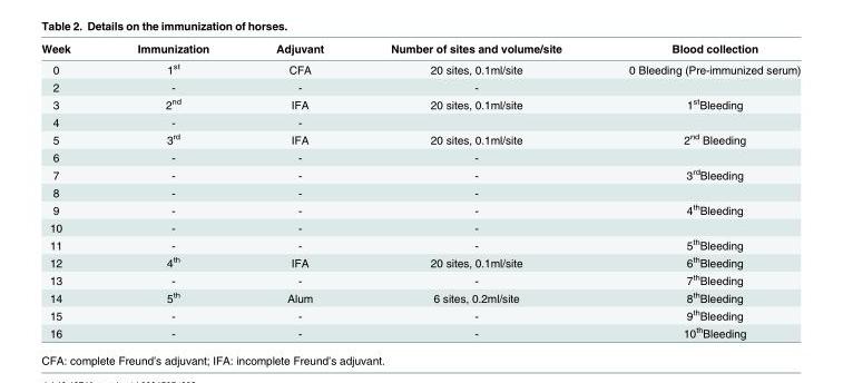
<table><thead><tr><td>Week</td><td>Immunization</td><td>Adjuvant</td><td>Number of sites and volume/site</td><td>Blood collection</td></tr></thead><tbody><tr><td>0</td><td>1<sup>st</sup></td><td>CFA</td><td>20 sites, 0.1ml/site</td><td>0 Bleeding (Pre-immunized serum)</td></tr><tr><td>2</td><td>-</td><td>-</td><td>-</td><td></td></tr><tr><td>3</td><td>2<sup>nd</sup></td><td>IFA</td><td>20 sites, 0.1ml/site</td><td>1<sup>st</sup>Bleeding</td></tr><tr><td>4</td><td>-</td><td>-</td><td></td><td></td></tr><tr><td>5</td><td>3<sup>rd</sup></td><td>IFA</td><td>20 sites, 0.1ml/site</td><td>2<sup>nd</sup> Bleeding</td></tr><tr><td>6</td><td>-</td><td>-</td><td>-</td><td></td></tr><tr><td>7</td><td>-</td><td>-</td><td>-</td><td>3<sup>rd</sup>Bleeding</td></tr><tr><td>8</td><td>-</td><td>-</td><td>-</td><td></td></tr><tr><td>9</td><td>-</td><td>-</td><td>-</td><td>4<sup>th</sup>Bleeding</td></tr><tr><td>10</td><td>-</td><td>-</td><td>-</td><td></td></tr><tr><td>11</td><td>-</td><td>-</td><td>-</td><td>5<sup>th</sup>Bleeding</td></tr><tr><td>12</td><td>4<sup>th</sup></td><td>IFA</td><td>20 sites, 0.1ml/site</td><td>6<sup>th</sup>Bleeding</td></tr><tr><td>13</td><td>-</td><td>-</td><td>-</td><td>7<sup>th</sup>Bleeding</td></tr><tr><td>14</td><td>5<sup>th</sup></td><td>Alum</td><td>6 sites, 0.2ml/site</td><td>8<sup>th</sup>Bleeding</td></tr><tr><td>15</td><td>-</td><td>-</td><td>-</td><td>9<sup>th</sup>Bleeding</td></tr><tr><td>16</td><td>-</td><td>-</td><td>-</td><td>10<sup>th</sup>Bleeding</td></tr></tbody></table>